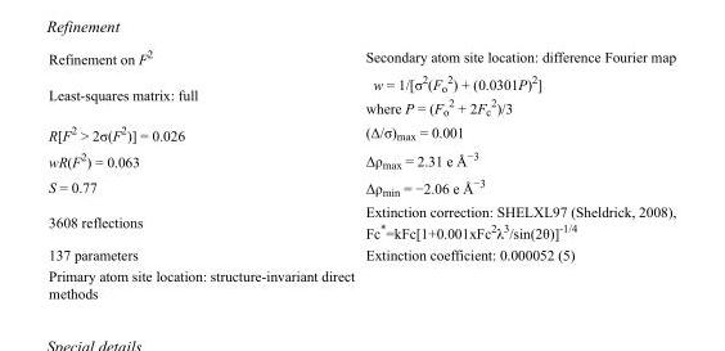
<table><tbody><tr><td>Refinement on F<sup>2</sup></td><td>Secondary atom site location: difference Fourier map</td></tr><tr><td>Least-squares matrix: full</td><td>w = 1/[σ<sup>2</sup>(F<sub>o</sub> <sup>2</sup>) + (0.0301P)<sup>2</sup>] where P = (F<sub>o</sub> <sup>2</sup> + 2F<sub>c</sub> <sup>2</sup>)/3</td></tr><tr><td>R[F<sup>2</sup> &gt; 2σ(F<sup>2</sup>)] = 0.026</td><td>(Δ/σ)<sub>max</sub> = 0.001</td></tr><tr><td>wR(F<sup>2</sup>) = 0.063</td><td>Δρ<sub>max</sub> = 2.31 e Å<sup>−3</sup></td></tr><tr><td>S = 0.77</td><td>Δρ<sub>min</sub> = −2.06 e Å<sup>−3</sup></td></tr><tr><td>3608 reflections</td><td>Extinction correction: SHELXL97 (Sheldrick, 2008), Fc*=kFc[1+0.001xFc<sup>2</sup>λ<sup>3</sup>/sin(2θ)]<sup>-1/4</sup></td></tr><tr><td>137 parameters</td><td>Extinction coefficient: 0.000052 (5)</td></tr><tr><td>Primary atom site location: structure-invariant direct methods</td><td></td></tr></tbody></table>